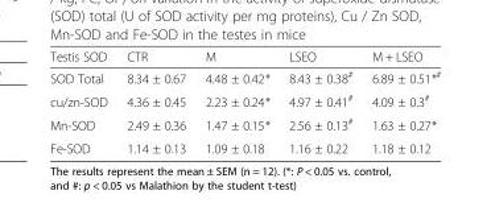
<table><thead><tr><td>Testis SOD</td><td>CTR</td><td>M</td><td>LSEO</td><td>M + LSEO</td></tr></thead><tbody><tr><td>SOD Total</td><td>8.34 ± 0.67</td><td>4.48 ± 0.42*</td><td>8.43 ± 0.38<sup>#</sup></td><td>6.89 ± 0.51*<sup>#</sup></td></tr><tr><td>cu/zn-SOD</td><td>4.36 ± 0.45</td><td>2.23 ± 0.24*</td><td>4.97 ± 0.41<sup>#</sup></td><td>4.09 ± 0.3<sup>#</sup></td></tr><tr><td>Mn-SOD</td><td>2.49 ± 0.36</td><td>1.47 ± 0.15*</td><td>2.56 ± 0.13<sup>#</sup></td><td>1.63 ± 0.27*</td></tr><tr><td>Fe-SOD</td><td>1.14 ± 0.13</td><td>1.09 ± 0.18</td><td>1.16 ± 0.22</td><td>1.18 ± 0.12</td></tr></tbody></table>